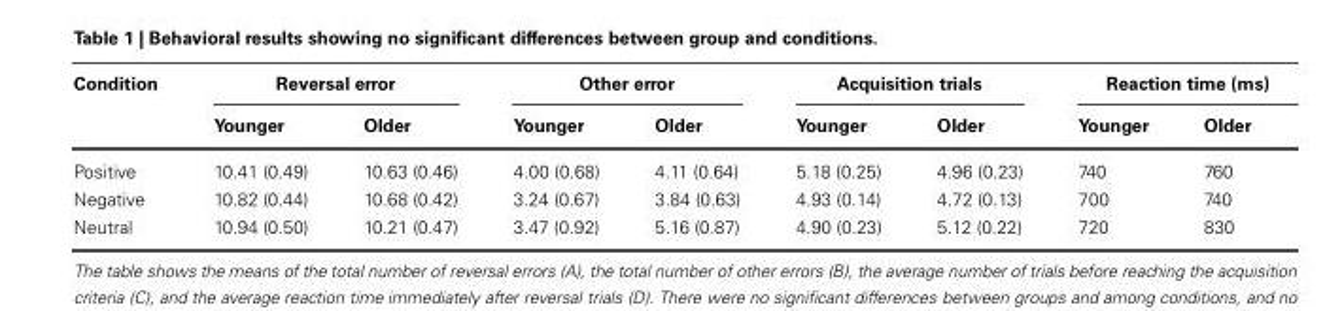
<table><thead><tr><td rowspan="2">Condition</td><td colspan="2">Reversal error</td><td colspan="2">Other error</td><td colspan="2">Acquisition trials</td><td colspan="2">Reaction time (ms)</td></tr><tr><td>Younger</td><td>Older</td><td>Younger</td><td>Older</td><td>Younger</td><td>Older</td><td>Younger</td><td>Older</td></tr></thead><tbody><tr><td>Positive</td><td>10.41 (0.49)</td><td>10.63 (0.46)</td><td>4.00 (0.68)</td><td>4.11 (0.64)</td><td>5.18 (0.25)</td><td>4.96 (0.23)</td><td>740</td><td>760</td></tr><tr><td>Negative</td><td>10.82 (0.44)</td><td>10.68 (0.42)</td><td>3.24 (0.67)</td><td>3.84 (0.63)</td><td>4.93 (0.14)</td><td>4.72 (0.13)</td><td>700</td><td>740</td></tr><tr><td>Neutral</td><td>10.94 (0.50)</td><td>10.21 (0.47)</td><td>3.47 (0.92)</td><td>5.16 (0.87)</td><td>4.90 (0.23)</td><td>5.12 (0.22)</td><td>720</td><td>830</td></tr></tbody></table>